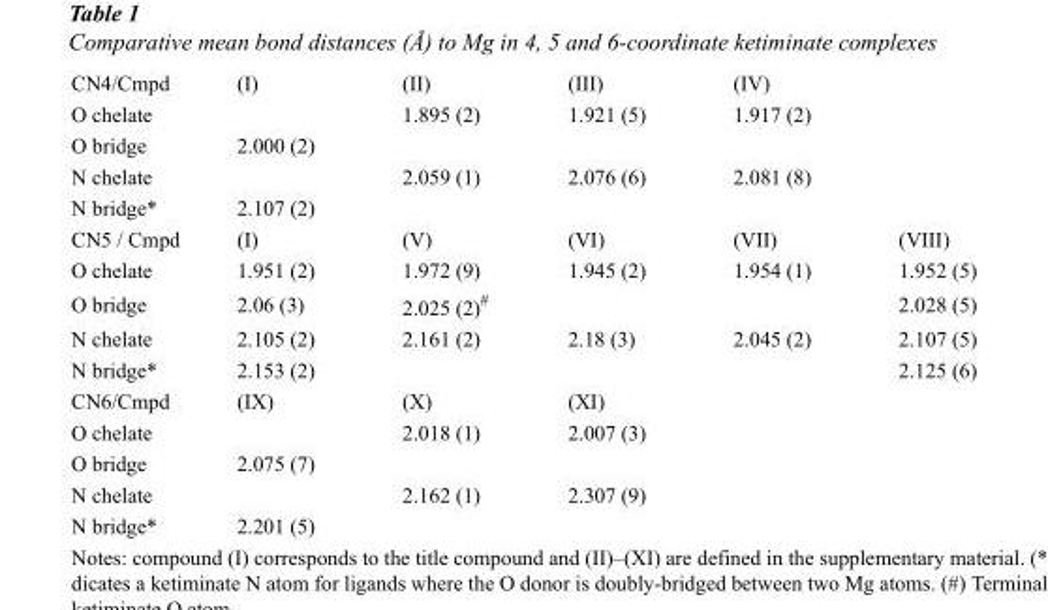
<table><tbody><tr><td>CN4/Cmpd</td><td>(I)</td><td>(II)</td><td>(III)</td><td>(IV)</td><td></td></tr><tr><td>O chelate</td><td></td><td>1.895 (2)</td><td>1.921 (5)</td><td>1.917 (2)</td><td></td></tr><tr><td>O bridge</td><td>2.000 (2)</td><td></td><td></td><td></td><td></td></tr><tr><td>N chelate</td><td></td><td>2.059 (1)</td><td>2.076 (6)</td><td>2.081 (8)</td><td></td></tr><tr><td>N bridge*</td><td>2.107 (2)</td><td></td><td></td><td></td><td></td></tr><tr><td>CN5 / Cmpd</td><td>(I)</td><td>(V)</td><td>(VI)</td><td>(VII)</td><td>(VIII)</td></tr><tr><td>O chelate</td><td>1.951 (2)</td><td>1.972 (9)</td><td>1.945 (2)</td><td>1.954 (1)</td><td>1.952 (5)</td></tr><tr><td>O bridge</td><td>2.06 (3)</td><td>2.025 (2)<sup>#</sup></td><td></td><td></td><td>2.028 (5)</td></tr><tr><td>N chelate</td><td>2.105 (2)</td><td>2.161 (2)</td><td>2.18 (3)</td><td>2.045 (2)</td><td>2.107 (5)</td></tr><tr><td>N bridge*</td><td>2.153 (2)</td><td></td><td></td><td></td><td>2.125 (6)</td></tr><tr><td>CN6/Cmpd</td><td>(IX)</td><td>(X)</td><td>(XI)</td><td></td><td></td></tr><tr><td>O chelate</td><td></td><td>2.018 (1)</td><td>2.007 (3)</td><td></td><td></td></tr><tr><td>O bridge</td><td>2.075 (7)</td><td></td><td></td><td></td><td></td></tr><tr><td>N chelate</td><td></td><td>2.162 (1)</td><td>2.307 (9)</td><td></td><td></td></tr><tr><td>N bridge*</td><td>2.201 (5)</td><td></td><td></td><td></td><td></td></tr></tbody></table>